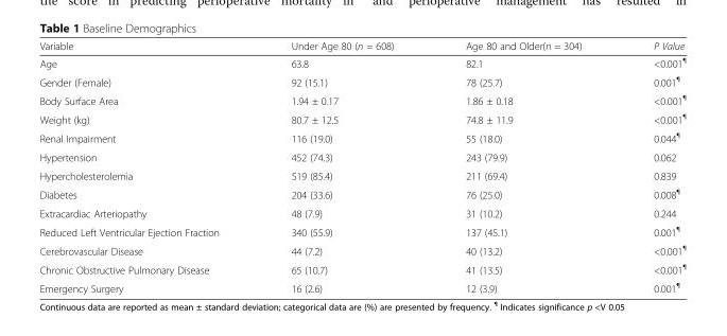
<table><thead><tr><td>Variable</td><td>Under Age 80 (n = 608)</td><td>Age 80 and Older(n = 304)</td><td>P Value</td></tr></thead><tbody><tr><td>Age</td><td>63.8</td><td>82.1</td><td>&lt;0.001<sup>¶</sup></td></tr><tr><td>Gender (Female)</td><td>92 (15.1)</td><td>78 (25.7)</td><td>0.001<sup>¶</sup></td></tr><tr><td>Body Surface Area</td><td>1.94 ± 0.17</td><td>1.86 ± 0.18</td><td>&lt;0.001<sup>¶</sup></td></tr><tr><td>Weight (kg)</td><td>80.7 ± 12.5</td><td>74.8 ± 11.9</td><td>&lt;0.001<sup>¶</sup></td></tr><tr><td>Renal Impairment</td><td>116 (19.0)</td><td>55 (18.0)</td><td>0.044<sup>¶</sup></td></tr><tr><td>Hypertension</td><td>452 (74.3)</td><td>243 (79.9)</td><td>0.062</td></tr><tr><td>Hypercholesterolemia</td><td>519 (85.4)</td><td>211 (69.4)</td><td>0.839</td></tr><tr><td>Diabetes</td><td>204 (33.6)</td><td>76 (25.0)</td><td>0.008<sup>¶</sup></td></tr><tr><td>Extracardiac Arteriopathy</td><td>48 (7.9)</td><td>31 (10.2)</td><td>0.244</td></tr><tr><td>Reduced Left Ventricular Ejection Fraction</td><td>340 (55.9)</td><td>137 (45.1)</td><td>0.001<sup>¶</sup></td></tr><tr><td>Cerebrovascular Disease</td><td>44 (7.2)</td><td>40 (13.2)</td><td>&lt;0.001<sup>¶</sup></td></tr><tr><td>Chronic Obstructive Pulmonary Disease</td><td>65 (10.7)</td><td>41 (13.5)</td><td>&lt;0.001<sup>¶</sup></td></tr><tr><td>Emergency Surgery</td><td>16 (2.6)</td><td>12 (3.9)</td><td>0.001<sup>¶</sup></td></tr></tbody></table>